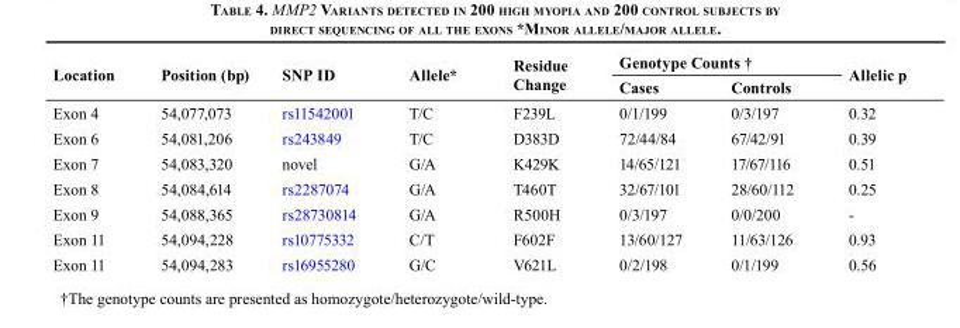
<table><thead><tr><td rowspan="2">Location</td><td rowspan="2">Position (bp)</td><td rowspan="2">SNP ID</td><td rowspan="2">Allele*</td><td rowspan="2">Residue Change</td><td colspan="2">Genotype Counts †</td><td rowspan="2">Allelic p</td></tr><tr><td>Cases</td><td>Controls</td></tr></thead><tbody><tr><td>Exon 4</td><td>54,077,073</td><td>rs11542001</td><td>T/C</td><td>F239L</td><td>0/1/199</td><td>0/3/197</td><td>0.32</td></tr><tr><td>Exon 6</td><td>54,081,206</td><td>rs243849</td><td>T/C</td><td>D383D</td><td>72/44/84</td><td>67/42/91</td><td>0.39</td></tr><tr><td>Exon 7</td><td>54,083,320</td><td>novel</td><td>G/A</td><td>K429K</td><td>14/65/121</td><td>17/67/116</td><td>0.51</td></tr><tr><td>Exon 8</td><td>54,084,614</td><td>rs2287074</td><td>G/A</td><td>T460T</td><td>32/67/101</td><td>28/60/112</td><td>0.25</td></tr><tr><td>Exon 9</td><td>54,088,365</td><td>rs28730814</td><td>G/A</td><td>R500H</td><td>0/3/197</td><td>0/0/200</td><td>-</td></tr><tr><td>Exon 11</td><td>54,094,228</td><td>rs10775332</td><td>C/T</td><td>F602F</td><td>13/60/127</td><td>11/63/126</td><td>0.93</td></tr><tr><td>Exon 11</td><td>54,094,283</td><td>rs16955280</td><td>G/C</td><td>V621L</td><td>0/2/198</td><td>0/1/199</td><td>0.56</td></tr></tbody></table>